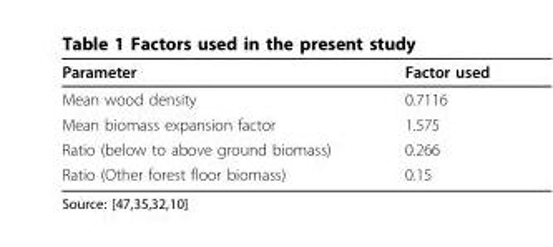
<table><thead><tr><td>Parameter</td><td>Factor used</td></tr></thead><tbody><tr><td>Mean wood density</td><td>0.7116</td></tr><tr><td>Mean biomass expansion factor</td><td>1.575</td></tr><tr><td>Ratio (below to above ground biomass)</td><td>0.266</td></tr><tr><td>Ratio (Other forest floor biomass)</td><td>0.15</td></tr></tbody></table>